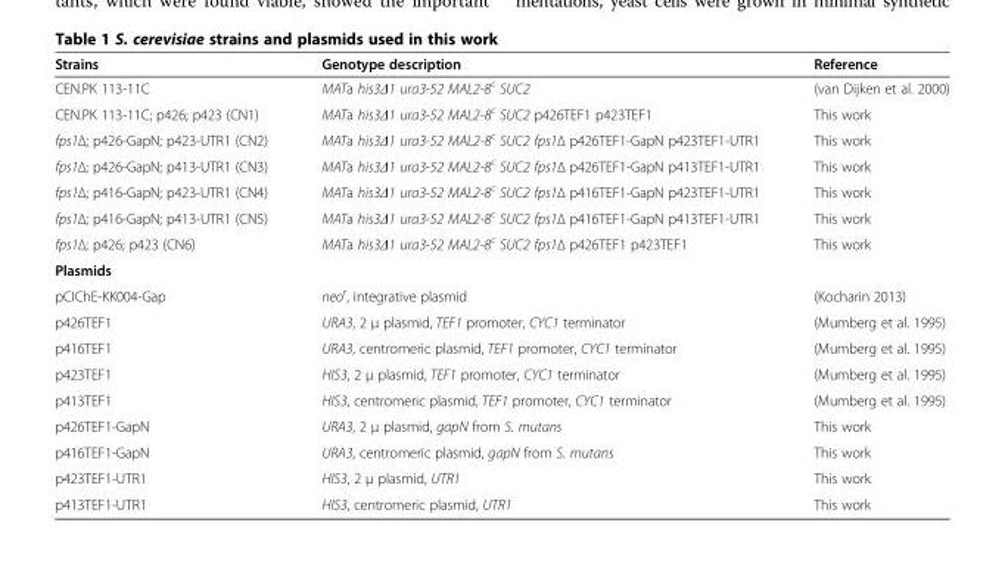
<table><thead><tr><td>Strains</td><td>Genotype description</td><td>Reference</td></tr></thead><tbody><tr><td>CEN.PK 113-11C</td><td>MATa his3Δ1 ura3-52 MAL2-8<sup>c</sup> SUC2</td><td>(van Dijken et al. 2000)</td></tr><tr><td>CEN.PK 113-11C; p426; p423 (CN1)</td><td>MATa his3Δ1 ura3-52 MAL2-8<sup>c</sup> SUC2 p426TEF1 p423TEF1</td><td>This work</td></tr><tr><td>fps1Δ; p426-GapN; p423-UTR1 (CN2)</td><td>MATa his3Δ1 ura3-52 MAL2-8c SUC2 fps1Δ p426TEF1-GapN p423TEF1-UTR1</td><td>This work</td></tr><tr><td>fps1Δ; p426-GapN; p413-UTR1 (CN3)</td><td>MATa his3Δ1 ura3-52 MAL2-8c SUC2 fps1Δ p426TEF1-GapN p413TEF1-UTR1</td><td>This work</td></tr><tr><td>fps1Δ; p416-GapN; p423-UTR1 (CN4)</td><td>MATa his3Δ1 ura3-52 MAL2-8c SUC2 fps1Δ p416TEF1-GapN p423TEF1-UTR1</td><td>This work</td></tr><tr><td>fps1Δ; p416-GapN; p413-UTR1 (CN5)</td><td>MATa his3Δ1 ura3-52 MAL2-8c SUC2 fps1Δ p416TEF1-GapN p413TEF1-UTR1</td><td>This work</td></tr><tr><td>fps1Δ; p426; p423 (CN6)</td><td>MATa his3Δ1 ura3-52 MAL2-8c SUC2 fps1Δ p426TEF1 p423TEF1</td><td>This work</td></tr><tr><td colspan="3">Plasmids</td></tr><tr><td>pCIChE-KK004-Gap</td><td>neo<sup>r</sup>, integrative plasmid</td><td>(Kocharin 2013)</td></tr><tr><td>p426TEF1</td><td>URA3, 2 μ plasmid, TEF1 promoter, CYC1 terminator</td><td>(Mumberg et al. 1995)</td></tr><tr><td>p416TEF1</td><td>URA3, centromeric plasmid, TEF1 promoter, CYC1 terminator</td><td>(Mumberg et al. 1995)</td></tr><tr><td>p423TEF1</td><td>HIS3, 2 μ plasmid, TEF1 promoter, CYC1 terminator</td><td>(Mumberg et al. 1995)</td></tr><tr><td>p413TEF1</td><td>HIS3, centromeric plasmid, TEF1 promoter, CYC1 terminator</td><td>(Mumberg et al. 1995)</td></tr><tr><td>p426TEF1-GapN</td><td>URA3, 2 μ plasmid, gapN from S. mutans</td><td>This work</td></tr><tr><td>p416TEF1-GapN</td><td>URA3, centromeric plasmid, gapN from S. mutans</td><td>This work</td></tr><tr><td>p423TEF1-UTR1</td><td>HIS3, 2 μ plasmid, UTR1</td><td>This work</td></tr><tr><td>p413TEF1-UTR1</td><td>HIS3, centromeric plasmid, UTR1</td><td>This work</td></tr></tbody></table>